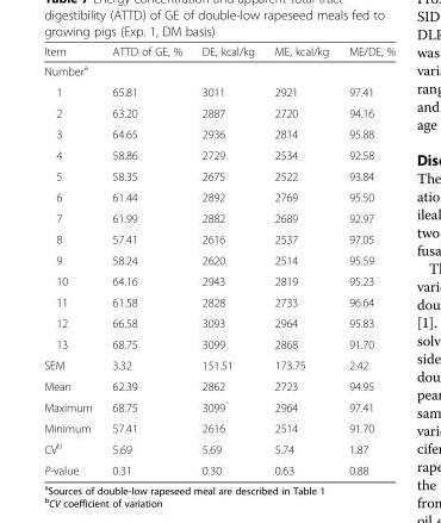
<table><thead><tr><td>Item</td><td>ATTD of GE, %</td><td>DE, kcal/kg</td><td>ME, kcal/kg</td><td>ME/DE, %</td></tr></thead><tbody><tr><td colspan="5">Number<sup>a</sup></td></tr><tr><td>1</td><td>65.81</td><td>3011</td><td>2921</td><td>97.41</td></tr><tr><td>2</td><td>63.20</td><td>2887</td><td>2720</td><td>94.16</td></tr><tr><td>3</td><td>64.65</td><td>2936</td><td>2814</td><td>95.88</td></tr><tr><td>4</td><td>58.86</td><td>2729</td><td>2534</td><td>92.58</td></tr><tr><td>5</td><td>58.35</td><td>2675</td><td>2522</td><td>93.84</td></tr><tr><td>6</td><td>61.44</td><td>2892</td><td>2769</td><td>95.50</td></tr><tr><td>7</td><td>61.99</td><td>2882</td><td>2689</td><td>92.97</td></tr><tr><td>8</td><td>57.41</td><td>2616</td><td>2537</td><td>97.05</td></tr><tr><td>9</td><td>58.24</td><td>2620</td><td>2514</td><td>95.59</td></tr><tr><td>10</td><td>64.16</td><td>2943</td><td>2819</td><td>95.23</td></tr><tr><td>11</td><td>61.58</td><td>2828</td><td>2733</td><td>96.64</td></tr><tr><td>12</td><td>66.58</td><td>3093</td><td>2964</td><td>95.83</td></tr><tr><td>13</td><td>68.75</td><td>3099</td><td>2868</td><td>91.70</td></tr><tr><td>SEM</td><td>3.32</td><td>151.51</td><td>173.75</td><td>2.42</td></tr><tr><td>Mean</td><td>62.39</td><td>2862</td><td>2723</td><td>94.95</td></tr><tr><td>Maximum</td><td>68.75</td><td>3099</td><td>2964</td><td>97.41</td></tr><tr><td>Minimum</td><td>57.41</td><td>2616</td><td>2514</td><td>91.70</td></tr><tr><td>CV<sup>b</sup></td><td>5.69</td><td>5.69</td><td>5.74</td><td>1.87</td></tr><tr><td>P-value</td><td>0.31</td><td>0.30</td><td>0.63</td><td>0.88</td></tr></tbody></table>